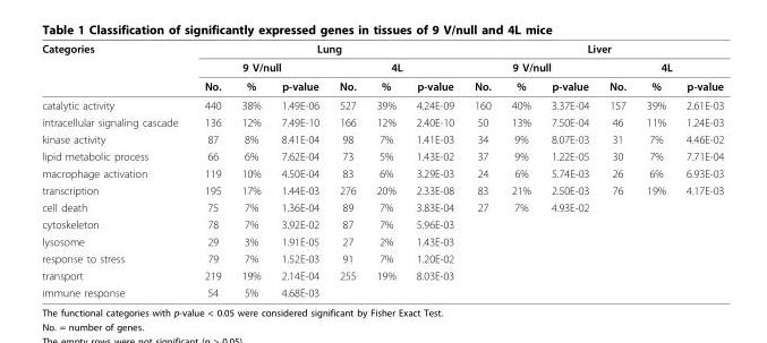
<table><thead><tr><td rowspan="3">Categories</td><td colspan="6">Lung</td><td colspan="6">Liver</td></tr><tr><td colspan="3">9 V/null</td><td colspan="3">4L</td><td colspan="3">9 V/null</td><td colspan="3">4L</td></tr><tr><td>No.</td><td>%</td><td>p-value</td><td>No.</td><td>%</td><td>p-value</td><td>No.</td><td>%</td><td>p-value</td><td>No.</td><td>%</td><td>p-value</td></tr></thead><tbody><tr><td>catalytic activity</td><td>440</td><td>38%</td><td>1.49E-06</td><td>527</td><td>39%</td><td>4.24E-09</td><td>160</td><td>40%</td><td>3.37E-04</td><td>157</td><td>39%</td><td>2.61E-03</td></tr><tr><td>intracellular signaling cascade</td><td>136</td><td>12%</td><td>7.49E-10</td><td>166</td><td>12%</td><td>2.40E-10</td><td>50</td><td>13%</td><td>7.50E-04</td><td>46</td><td>11%</td><td>1.24E-03</td></tr><tr><td>kinase activity</td><td>87</td><td>8%</td><td>8.41E-04</td><td>98</td><td>7%</td><td>1.41E-03</td><td>34</td><td>9%</td><td>8.07E-03</td><td>31</td><td>7%</td><td>4.46E-02</td></tr><tr><td>lipid metabolic process</td><td>66</td><td>6%</td><td>7.62E-04</td><td>73</td><td>5%</td><td>1.43E-02</td><td>37</td><td>9%</td><td>1.22E-05</td><td>30</td><td>7%</td><td>7.71E-04</td></tr><tr><td>macrophage activation</td><td>119</td><td>10%</td><td>4.50E-04</td><td>83</td><td>6%</td><td>3.29E-03</td><td>24</td><td>6%</td><td>5.74E-03</td><td>26</td><td>6%</td><td>6.93E-03</td></tr><tr><td>transcription</td><td>195</td><td>17%</td><td>1.44E-03</td><td>276</td><td>20%</td><td>2.33E-08</td><td>83</td><td>21%</td><td>2.50E-03</td><td>76</td><td>19%</td><td>4.17E-03</td></tr><tr><td>cell death</td><td>75</td><td>7%</td><td>1.36E-04</td><td>89</td><td>7%</td><td>3.83E-04</td><td>27</td><td>7%</td><td>4.93E-02</td><td></td><td></td><td></td></tr><tr><td>cytoskeleton</td><td>78</td><td>7%</td><td>3.92E-02</td><td>87</td><td>7%</td><td>5.96E-03</td><td></td><td></td><td></td><td></td><td></td><td></td></tr><tr><td>lysosome</td><td>29</td><td>3%</td><td>1.91E-05</td><td>27</td><td>2%</td><td>1.43E-03</td><td></td><td></td><td></td><td></td><td></td><td></td></tr><tr><td>response to stress</td><td>79</td><td>7%</td><td>1.52E-03</td><td>91</td><td>7%</td><td>1.20E-02</td><td></td><td></td><td></td><td></td><td></td><td></td></tr><tr><td>transport</td><td>219</td><td>19%</td><td>2.14E-04</td><td>255</td><td>19%</td><td>8.03E-03</td><td></td><td></td><td></td><td></td><td></td><td></td></tr><tr><td>immune response</td><td>54</td><td>5%</td><td>4.68E-03</td><td></td><td></td><td></td><td></td><td></td><td></td><td></td><td></td><td></td></tr></tbody></table>